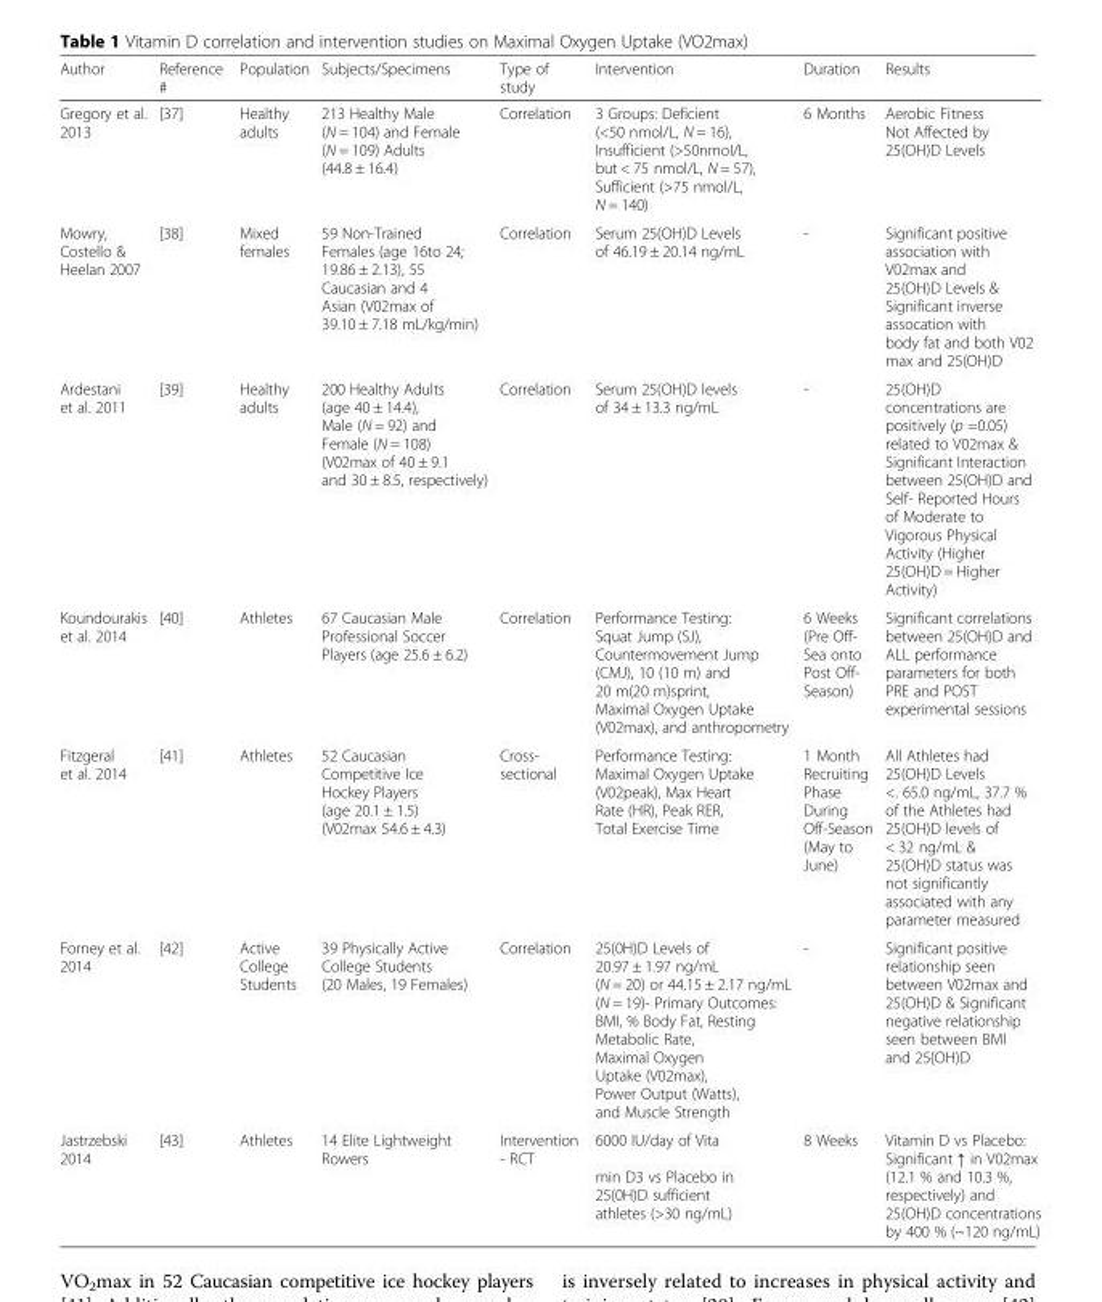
<table><thead><tr><td>Author</td><td>Reference #</td><td>Population</td><td>Subjects/Specimens</td><td>Type of study</td><td>Intervention</td><td>Duration</td><td>Results</td></tr></thead><tbody><tr><td>Gregory et al. 2013</td><td>[37]</td><td>Healthy adults</td><td>213 Healthy Male (N = 104) and Female (N = 109) Adults (44.8 ± 16.4)</td><td>Correlation</td><td>3 Groups: Deficient (&lt;50 nmol/L, N = 16), Insufficient (&gt;50nmoI/L, but &lt; 75 nmol/L, N = 57), Sufficient (&gt;75 nmol/L, N = 140)</td><td>6 Months</td><td>Aerobic Fitness Not Affected by 25(OH)D Levels</td></tr><tr><td>Mowry, Costello &amp; Heelan 2007</td><td>[38]</td><td>Mixed females</td><td>59 Non-Trained Females (age 16to 24; 19.86 ± 2.13), 55 Caucasian and 4 Asian (V02max of 39.10 ± 7.18 mL/kg/min)</td><td>Correlation</td><td>Serum 25(OH)D Levels of 46.19 ± 20.14 ng/mL</td><td>-</td><td>Significant positive association with V02max and 25(OH)D Levels &amp; Significant inverse assocation with body fat and both V02 max and 25(OH)D</td></tr><tr><td>Ardestani et al. 2011</td><td>[39]</td><td>Healthy adults</td><td>200 Healthy Adults (age 40 ± 14.4), Male (N = 92) and Female (N = 108) (V02max of 40 ± 9.1 and 30 ± 8.5, respectively)</td><td>Correlation</td><td>Serum 25(OH)D levels of 34 ± 13.3 ng/mL</td><td>-</td><td>25(OH)D concentrations are positively (p =0.05) related to V02max &amp; Significant Interaction between 25(OH)D and Self- Reported Hours of Moderate to Vigorous Physical Activity (Higher 25(OH)D = Higher Activity)</td></tr><tr><td>Koundourakis et al. 2014</td><td>[40]</td><td>Athletes</td><td>67 Caucasian Male Professional Soccer Players (age 25.6 ± 6.2)</td><td>Correlation</td><td>Performance Testing: Squat Jump (SJ), Countermovement Jump (CMJ), 10 (10 m) and 20 m(20 m)sprint, Maximal Oxygen Uptake (V02max), and anthropometry</td><td>6 Weeks (Pre Off- Sea onto Post Off- Season)</td><td>Significant correlations between 25(OH)D and ALL performance parameters for both PRE and POST experimental sessions</td></tr><tr><td>Fitzgeral et al. 2014</td><td>[41]</td><td>Athletes</td><td>52 Caucasian Competitive Ice Hockey Players (age 20.1 ± 1.5) (V02max 54.6 ± 4.3)</td><td>Cross- sectional</td><td>Performance Testing: Maximal Oxygen Uptake (V02peak), Max Heart Rate (HR), Peak RER, Total Exercise Time</td><td>1 Month Recruiting Phase During Off-Season (May to June)</td><td>All Athletes had 25(OH)D Levels &lt;. 65.0 ng/mL, 37.7 % of the Athletes had 25(OH)D levels of &lt; 32 ng/mL &amp; 25(OH)D status was not significantly associated with any parameter measured</td></tr><tr><td>Forney et al. 2014</td><td>[42]</td><td>Active College Students</td><td>39 Physically Active College Students (20 Males, 19 Females)</td><td>Correlation</td><td>25(0H)D Levels of 20.97 ± 1.97 ng/mL (N = 20) or 44.15 ± 2.17 ng/mL (N = 19)- Primary Outcomes: BMI, % Body Fat, Resting Metabolic Rate, Maximal Oxygen Uptake (V02max), Power Output (Watts), and Muscle Strength</td><td>-</td><td>Significant positive relationship seen between V02max and 25(OH)D &amp; Significant negative relationship seen between BMI and 25{OH)D</td></tr><tr><td>Jastrzebski 2014</td><td>[43]</td><td>Athletes</td><td>14 Elite Lightweight Rowers</td><td>Intervention - RCT</td><td>6000 IU/day of Vita min D3 vs Placebo in 25(0H)D sufficient athletes (&gt;30 ng/mL)</td><td>8 Weeks</td><td>Vitamin D vs Placebo: Significant ↑ in V02max (12.1 % and 10.3 %, respectively) and 25(OH)D concentrations by 400 % (~120 ng/mL)</td></tr></tbody></table>